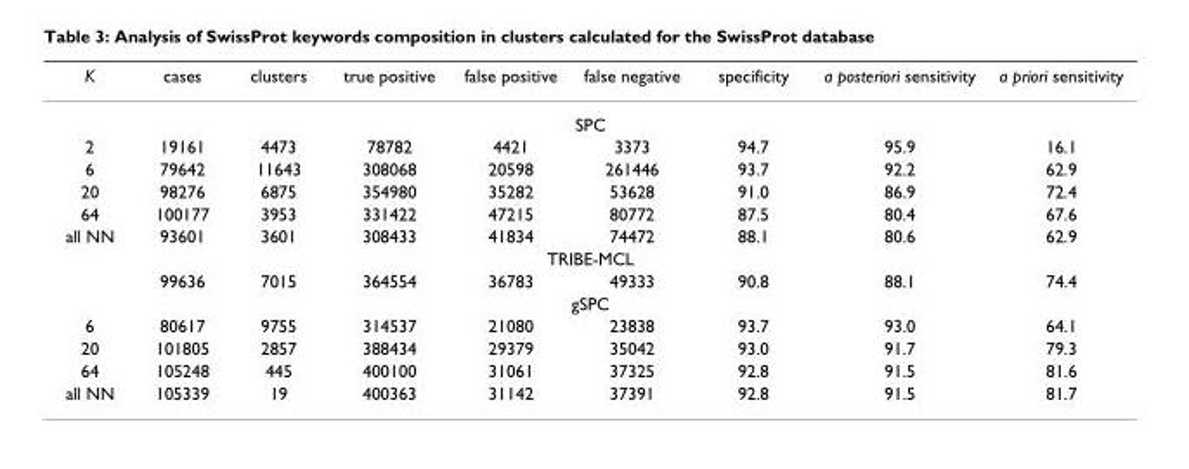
<table><thead><tr><td>K</td><td>cases</td><td>clusters</td><td>true positive</td><td>false positive</td><td>false negative</td><td>specificity</td><td>a posteriori sensitivity</td><td>a priori sensitivity</td></tr></thead><tbody><tr><td colspan="9">SPC</td></tr><tr><td>2</td><td>19161</td><td>4473</td><td>78782</td><td>4421</td><td>3373</td><td>94.7</td><td>95.9</td><td>16.1</td></tr><tr><td>6</td><td>79642</td><td>11643</td><td>308068</td><td>20598</td><td>261446</td><td>93.7</td><td>92.2</td><td>62.9</td></tr><tr><td>20</td><td>98276</td><td>6875</td><td>354980</td><td>35282</td><td>53628</td><td>91.0</td><td>86.9</td><td>72.4</td></tr><tr><td>64</td><td>100177</td><td>3953</td><td>331422</td><td>47215</td><td>80772</td><td>87.5</td><td>80.4</td><td>67.6</td></tr><tr><td>all NN</td><td>93601</td><td>3601</td><td>308433</td><td>41834</td><td>74472</td><td>88.1</td><td>80.6</td><td>62.9</td></tr><tr><td colspan="9">TRIBE-MCL</td></tr><tr><td></td><td>99636</td><td>7015</td><td>364554</td><td>36783</td><td>49333</td><td>90.8</td><td>88.1</td><td>74.4</td></tr><tr><td colspan="9">gSPC</td></tr><tr><td>6</td><td>80617</td><td>9755</td><td>314537</td><td>21080</td><td>23838</td><td>93.7</td><td>93.0</td><td>64.1</td></tr><tr><td>20</td><td>101805</td><td>2857</td><td>388434</td><td>29379</td><td>35042</td><td>93.0</td><td>91.7</td><td>79.3</td></tr><tr><td>64</td><td>105248</td><td>445</td><td>400100</td><td>31061</td><td>37325</td><td>92.8</td><td>91.5</td><td>81.6</td></tr><tr><td>all NN</td><td>105339</td><td>19</td><td>400363</td><td>31142</td><td>37391</td><td>92.8</td><td>91.5</td><td>81.7</td></tr></tbody></table>